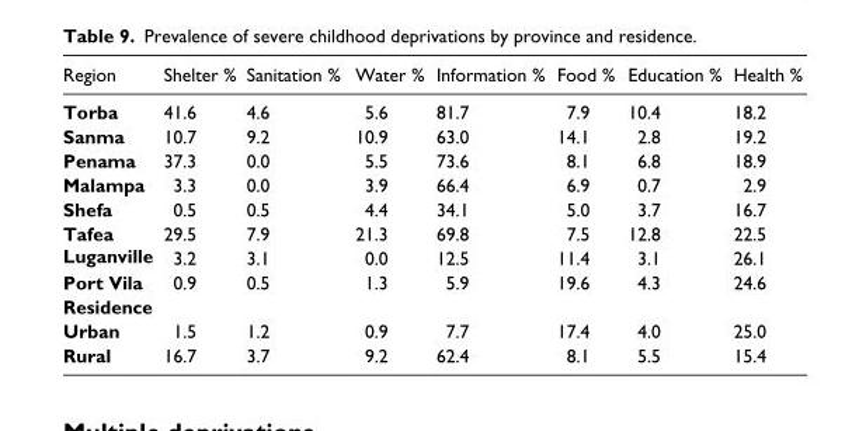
<table><thead><tr><td>Region</td><td>Shelter %</td><td>Sanitation %</td><td>Water %</td><td>Information %</td><td>Food %</td><td>Education %</td><td>Health %</td></tr></thead><tbody><tr><td>Torba</td><td>41.6</td><td>4.6</td><td>5.6</td><td>81.7</td><td>7.9</td><td>10.4</td><td>18.2</td></tr><tr><td>Sanma</td><td>10.7</td><td>9.2</td><td>10.9</td><td>63.0</td><td>14.1</td><td>2.8</td><td>19.2</td></tr><tr><td>Penama</td><td>37.3</td><td>0.0</td><td>5.5</td><td>73.6</td><td>8.1</td><td>6.8</td><td>18.9</td></tr><tr><td>Malampa</td><td>3.3</td><td>0.0</td><td>3.9</td><td>66.4</td><td>6.9</td><td>0.7</td><td>2.9</td></tr><tr><td>Shefa</td><td>0.5</td><td>0.5</td><td>4.4</td><td>34.1</td><td>5.0</td><td>3.7</td><td>16.7</td></tr><tr><td rowspan="2">Tafea Luganville</td><td>29.5</td><td>7.9</td><td>21.3</td><td>69.8</td><td>7.5</td><td>12.8</td><td>22.5</td></tr><tr><td>3.2</td><td>3.1</td><td>0.0</td><td>12.5</td><td>11.4</td><td>3.1</td><td>26.1</td></tr><tr><td>Port Vila</td><td>0.9</td><td>0.5</td><td>1.3</td><td>5.9</td><td>19.6</td><td>4.3</td><td>24.6</td></tr><tr><td colspan="8">Residence</td></tr><tr><td>Urban</td><td>1.5</td><td>1.2</td><td>0.9</td><td>7.7</td><td>17.4</td><td>4.0</td><td>25.0</td></tr><tr><td>Rural</td><td>16.7</td><td>3.7</td><td>9.2</td><td>62.4</td><td>8.1</td><td>5.5</td><td>15.4</td></tr></tbody></table>